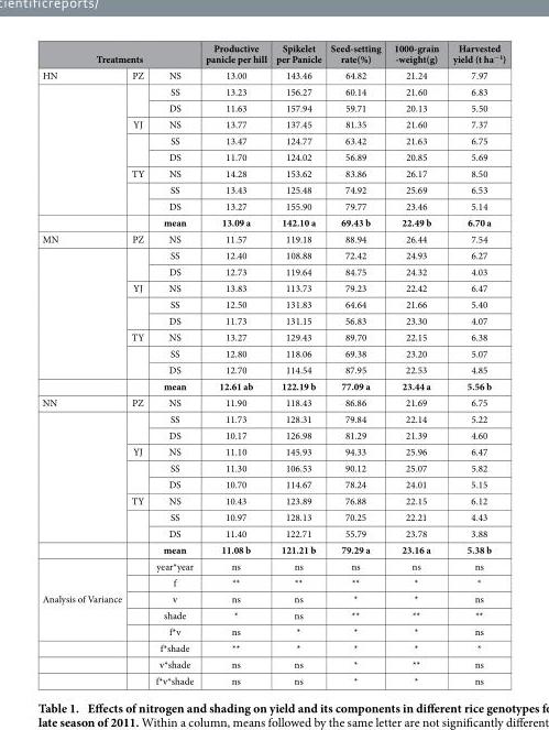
<table><thead><tr><td colspan="3">Treatments</td><td rowspan="2">Productive panicle per hill 13.00</td><td rowspan="2">Spikelet per Panicle 143.46</td><td rowspan="2">Seed-setting rate(%) 64.82</td><td rowspan="2">1000-grain -weight(g) 21.24</td><td rowspan="2">Harvested yield (t ha<sup>−1</sup>) 7.97</td></tr><tr><td>HN</td><td>PZ</td><td>NS</td></tr></thead><tbody><tr><td rowspan="8"></td><td rowspan="2"></td><td>SS</td><td>13.23</td><td>156.27</td><td>60.14</td><td>21.60</td><td>6.83</td></tr><tr><td>DS</td><td>11.63</td><td>157.94</td><td>59.71</td><td>20.13</td><td>5.50</td></tr><tr><td>YJ</td><td>NS</td><td>13.77</td><td>137.45</td><td>81.35</td><td>21.60</td><td>7.37</td></tr><tr><td rowspan="2"></td><td>SS</td><td>13.47</td><td>124.77</td><td>63.42</td><td>21.63</td><td>6.75</td></tr><tr><td>DS</td><td>11.70</td><td>124.02</td><td>56.89</td><td>20.85</td><td>5.69</td></tr><tr><td>TY</td><td>NS</td><td>14.28</td><td>153.62</td><td>83.86</td><td>26.17</td><td>8.50</td></tr><tr><td rowspan="2"></td><td>SS</td><td>13.43</td><td>125.48</td><td>74.92</td><td>25.69</td><td>6.53</td></tr><tr><td>DS</td><td>13.27</td><td>155.90</td><td>79.77</td><td>23.46</td><td>5.14</td></tr><tr><td></td><td></td><td>mean</td><td>13.09 a</td><td>142.10 a</td><td>69.43 b</td><td>22.49 b</td><td>6.70 a</td></tr><tr><td rowspan="10">MN</td><td>PZ</td><td>NS</td><td>11.57</td><td>119.18</td><td>88.94</td><td>26.44</td><td>7.54</td></tr><tr><td rowspan="2"></td><td>SS</td><td>12.40</td><td>108.88</td><td>72.42</td><td>24.93</td><td>6.27</td></tr><tr><td>DS</td><td>12.73</td><td>119.64</td><td>84.75</td><td>24.32</td><td>4.03</td></tr><tr><td>YJ</td><td>NS</td><td>13.83</td><td>113.73</td><td>79.23</td><td>22.42</td><td>6.47</td></tr><tr><td rowspan="2"></td><td>SS</td><td>12.50</td><td>131.83</td><td>64.64</td><td>21.66</td><td>5.40</td></tr><tr><td>DS</td><td>11.73</td><td>131.15</td><td>56.83</td><td>23.30</td><td>4.07</td></tr><tr><td>TY</td><td>NS</td><td>13.27</td><td>129.43</td><td>89.70</td><td>22.15</td><td>6.38</td></tr><tr><td rowspan="2"></td><td>SS</td><td>12.80</td><td>118.06</td><td>69.38</td><td>23.20</td><td>5.07</td></tr><tr><td>DS</td><td>12.70</td><td>114.54</td><td>87.95</td><td>22.53</td><td>4.85</td></tr><tr><td></td><td>mean</td><td>12.61 ab</td><td>122.19 b</td><td>77.09 a</td><td>23.44 a</td><td>5.56 b</td></tr><tr><td rowspan="10">NN</td><td>PZ</td><td>NS</td><td>11.90</td><td>118.43</td><td>86.86</td><td>21.69</td><td>6.75</td></tr><tr><td rowspan="2"></td><td>SS</td><td>11.73</td><td>128.31</td><td>79.84</td><td>22.14</td><td>5.22</td></tr><tr><td>DS</td><td>10.17</td><td>126.98</td><td>81.29</td><td>21.39</td><td>4.60</td></tr><tr><td>YJ</td><td>NS</td><td>11.10</td><td>145.93</td><td>94.33</td><td>25.96</td><td>6.47</td></tr><tr><td rowspan="2"></td><td>SS</td><td>11.30</td><td>106.53</td><td>90.12</td><td>25.07</td><td>5.82</td></tr><tr><td>DS</td><td>10.70</td><td>114.67</td><td>78.24</td><td>24.01</td><td>5.15</td></tr><tr><td>TY</td><td>NS</td><td>10.43</td><td>123.89</td><td>76.88</td><td>22.15</td><td>6.12</td></tr><tr><td rowspan="2"></td><td>SS</td><td>10.97</td><td>128.13</td><td>70.25</td><td>22.21</td><td>4.43</td></tr><tr><td>DS</td><td>11.40</td><td>122.71</td><td>55.79</td><td>23.78</td><td>3.88</td></tr><tr><td></td><td>mean</td><td>11.08 b</td><td>121.21 b</td><td>79.29 a</td><td>23.16 a</td><td>5.38 b</td></tr><tr><td rowspan="8">Analysis of Variance</td><td></td><td>year*year</td><td>ns</td><td>ns</td><td>ns</td><td>ns</td><td>ns</td></tr><tr><td></td><td>f</td><td>**</td><td>**</td><td>**</td><td>*</td><td>*</td></tr><tr><td></td><td>v</td><td>ns</td><td>ns</td><td>*</td><td>*</td><td>ns</td></tr><tr><td></td><td>shade</td><td>*</td><td>ns</td><td>**</td><td>**</td><td>**</td></tr><tr><td></td><td>f*v</td><td>ns</td><td>*</td><td>*</td><td>*</td><td>ns</td></tr><tr><td></td><td>f*shade</td><td>**</td><td>*</td><td>*</td><td>*</td><td>*</td></tr><tr><td></td><td>v*shade</td><td>ns</td><td>ns</td><td>*</td><td>**</td><td>ns</td></tr><tr><td></td><td>f*v*shade</td><td>ns</td><td>ns</td><td>*</td><td>*</td><td>ns</td></tr></tbody></table>